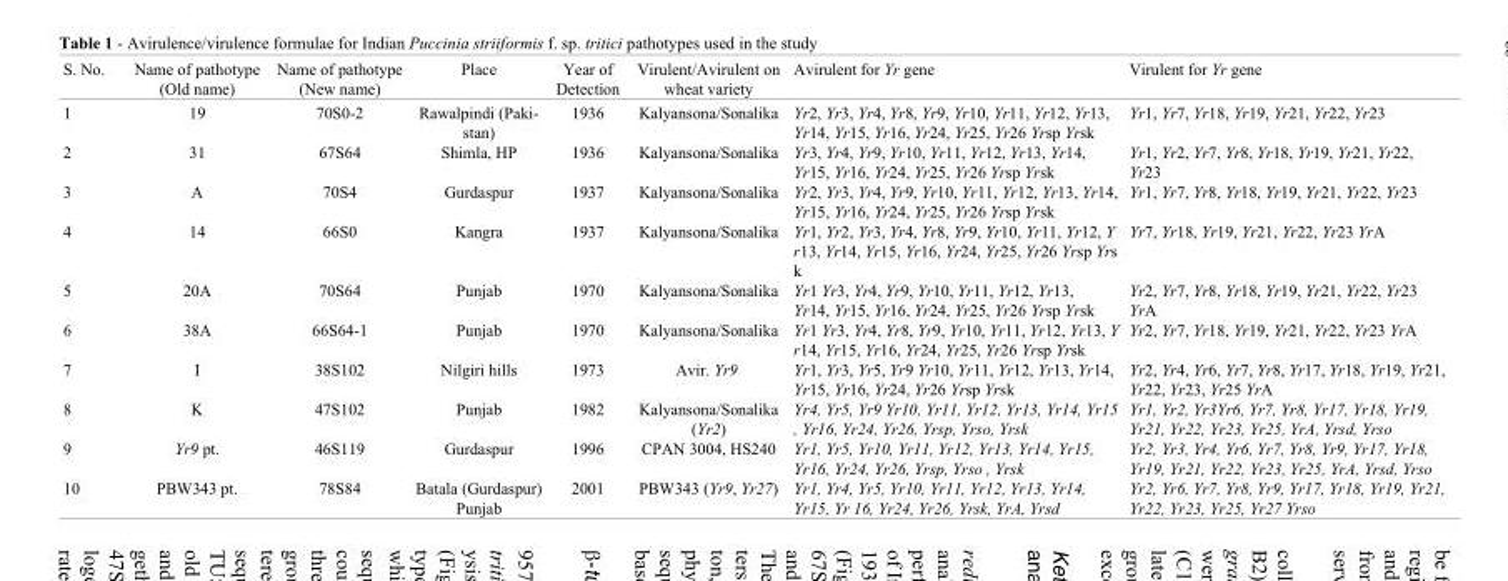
<table><thead><tr><td>S. No.</td><td>Name of pathotype (Old name)</td><td>Name of pathotype (New name)</td><td>Place</td><td>Year of Detection</td><td>Virulent/Avirulent on wheat variety</td><td>Avirulent for Yr gene</td><td>Virulent for Yr gene</td></tr></thead><tbody><tr><td>1</td><td>19</td><td>70S0-2</td><td>Rawalpindi (Paki- stan)</td><td>1936</td><td>Kalyansona/Sonalika</td><td>Yr2, Yr3, Yr4, Yr8, Yr9, Yr10, Yr11, Yr12, Yr13, Yr14, Yr15, Yr16, Yr24, Yr25, Yr26 Yrsp Yrsk</td><td>Yr1, Yr7, Yr18, Yr19, Yr21, Yr22, Yr23</td></tr><tr><td>2</td><td>31</td><td>67S64</td><td>Shimla, HP</td><td>1936</td><td>Kalyansona/Sonalika</td><td>Yr3, Yr4, Yr9, Yr10, Yr11, Yr12, Yr13, Yr14, Yr15, Yr16, Yr24, Yr25, Yr26 Yrsp Yrsk</td><td>Yr1, Yr2, Yr7, Yr8, Yr18, Yr19, Yr21, Yr22, Yr23</td></tr><tr><td>3</td><td>A</td><td>70S4</td><td>Gurdaspur</td><td>1937</td><td>Kalyansona/Sonalika</td><td>Yr2, Yr3, Yr4, Yr9, Yr10, Yr11, Yr12, Yr13, Yr14, Yr15, Yr16, Yr24, Yr25, Yr26 Yrsp Yrsk</td><td>Yr1, Yr7, Yr8, Yr18, Yr19, Yr21, Yr22, Yr23</td></tr><tr><td>4</td><td>14</td><td>66S0</td><td>Kangra</td><td>1937</td><td>Kalyansona/Sonalika</td><td>Yr1, Yr2, Yr3, Yr4, Yr8, Yr9, Yr10, Yr11, Yr12, Y r13, Yr14, Yr15, Yr16, Yr24, Yr25, Yr26 Yrsp Yrs k</td><td>Yr7, Yr18, Yr19, Yr21, Yr22, Yr23 YrA</td></tr><tr><td>5</td><td>20A</td><td>70S64</td><td>Punjab</td><td>1970</td><td>Kalyansona/Sonalika</td><td>Yr1 Yr3, Yr4, Yr9, Yr10, Yr11, Yr12, Yr13, Yr14, Yr15, Yr16, Yr24, Yr25, Yr26 Yrsp Yrsk</td><td>Yr2, Yr7, Yr8, Yr18, Yr19, Yr21, Yr22, Yr23 YrA</td></tr><tr><td>6</td><td>38A</td><td>66S64-1</td><td>Punjab</td><td>1970</td><td>Kalyansona/Sonalika</td><td>Yr1 Yr3, Yr4, Yr8, Yr9, Yr10, Yr11, Yr12, Yr13, Y r14, Yr15, Yr16, Yr24, Yr25, Yr26 Yrsp Yrsk</td><td>Yr2, Yr7, Yr18, Yr19, Yr21, Yr22, Yr23 YrA</td></tr><tr><td>7</td><td>I</td><td>38S102</td><td>Nilgiri hills</td><td>1973</td><td>Avir. Yr9</td><td>Yr1, Yr3, Yr5, Yr9 Yr10, Yr11, Yr12, Yr13, Yr14, Yr15, Yr16, Yr24, Yr26 Yrsp Yrsk</td><td>Yr2, Yr4, Yr6, Yr7, Yr8, Yr17, Yr18, Yr19, Yr21, Yr22, Yr23, Yr25 YrA</td></tr><tr><td>8</td><td>K</td><td>47S102</td><td>Punjab</td><td>1982</td><td>Kalyansona/Sonalika (Yr2)</td><td>Yr4, Yr5, Yr9 Yr10, Yr11, Yr12, Yr13, Yr14, Yr15 , Yr16, Yr24, Yr26, Yrsp, Yrso, Yrsk</td><td>Yr1, Yr2, Yr3Yr6, Yr7, Yr8, Yr17, Yr18, Yr19, Yr21, Yr22, Yr23, Yr25, YrA, Yrsd, Yrso</td></tr><tr><td>9</td><td>Yr9 pt.</td><td>46S119</td><td>Gurdaspur</td><td>1996</td><td>CPAN 3004, HS240</td><td>Yr1, Yr5, Yr10, Yr11, Yr12, Yr13, Yr14, Yr15, Yr16, Yr24, Yr26, Yrsp, Yrso , Yrsk</td><td>Yr2, Yr3, Yr4, Yr6, Yr7, Yr8, Yr9, Yr17, Yr18, Yr19, Yr21, Yr22, Yr23, Yr25, YrA, Yrsd, Yrso</td></tr><tr><td>10</td><td>PBW343 pt.</td><td>78S84</td><td>Batala (Gurdaspur) Punjab</td><td>2001</td><td>PBW343 (Yr9, Yr27)</td><td>Yr1, Yr4, Yr5, Yr10, Yr11, Yr12, Yr13, Yr14, Yr15, Yr 16, Yr24, Yr26, Yrsk, YrA, Yrsd</td><td>Yr2, Yr6, Yr7, Yr8, Yr9, Yr17, Yr18, Yr19, Yr21, Yr22, Yr23, Yr25, Yr27 Yrso</td></tr></tbody></table>